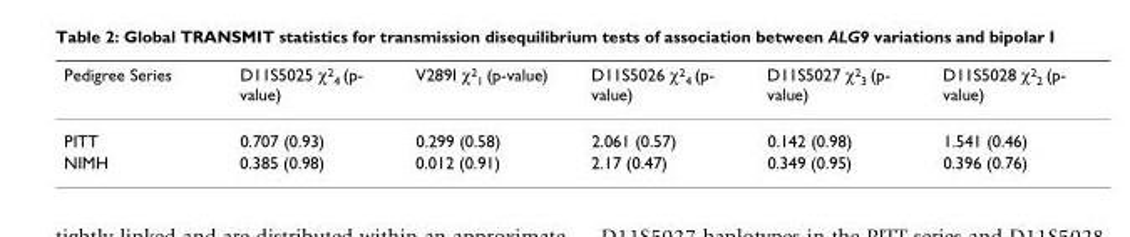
<table><thead><tr><td>Pedigree Series</td><td>D11S5025 χ<sup>2</sup><sub>4</sub> (p- value)</td><td>V289I χ<sup>2</sup><sub>1</sub> (p-value)</td><td>D11S5026 χ<sup>2</sup><sub>4</sub> (p- value)</td><td>D11S5027 χ<sup>2</sup><sub>3</sub> (p- value)</td><td>D11S5028 χ<sup>2</sup><sub>2</sub> (p- value)</td></tr></thead><tbody><tr><td>PITT</td><td>0.707 (0.93)</td><td>0.299 (0.58)</td><td>2.061 (0.57)</td><td>0.142 (0.98)</td><td>1.541 (0.46)</td></tr><tr><td>NIMH</td><td>0.385 (0.98)</td><td>0.012 (0.91)</td><td>2.17 (0.47)</td><td>0.349 (0.95)</td><td>0.396 (0.76)</td></tr></tbody></table>